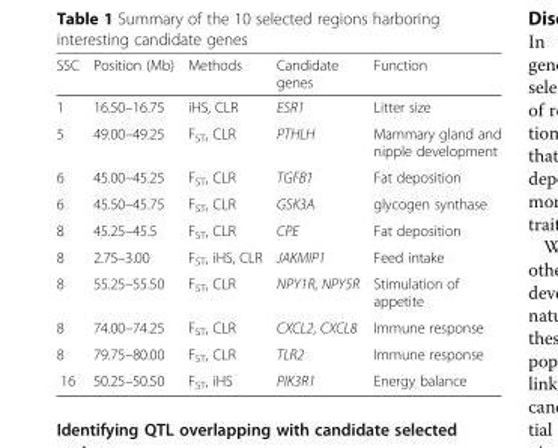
<table><thead><tr><td>SSC</td><td>Position (Mb)</td><td>Methods</td><td>Candidate genes</td><td>Function</td></tr></thead><tbody><tr><td>1</td><td>16.50–16.75</td><td>iHS, CLR</td><td>ESR1</td><td>Litter size</td></tr><tr><td>5</td><td>49.00–49.25</td><td>F<sub>ST</sub>, CLR</td><td>PTHLH</td><td>Mammary gland and nipple development</td></tr><tr><td>6</td><td>45.00–45.25</td><td>F<sub>ST</sub>, CLR</td><td>TGFB1</td><td>Fat deposition</td></tr><tr><td>6</td><td>45.50–45.75</td><td>F<sub>ST</sub>, CLR</td><td>GSK3A</td><td>glycogen synthase</td></tr><tr><td>8</td><td>45.25–45.5</td><td>F<sub>ST</sub>, CLR</td><td>CPE</td><td>Fat deposition</td></tr><tr><td>8</td><td>2.75–3.00</td><td>F<sub>ST</sub>, iHS, CLR</td><td>JAKMIP1</td><td>Feed intake</td></tr><tr><td>8</td><td>55.25–55.50</td><td>F<sub>ST</sub>, CLR</td><td>NPY1R, NPY5R</td><td>Stimulation of appetite</td></tr><tr><td>8</td><td>74.00–74.25</td><td>F<sub>ST</sub>, CLR</td><td>CXCL2, CXCL8</td><td>Immune response</td></tr><tr><td>8</td><td>79.75–80.00</td><td>F<sub>ST</sub>, CLR</td><td>TLR2</td><td>Immune response</td></tr><tr><td>16</td><td>50.25–50.50</td><td>F<sub>ST</sub>, iHS</td><td>PIK3R1</td><td>Energy balance</td></tr></tbody></table>